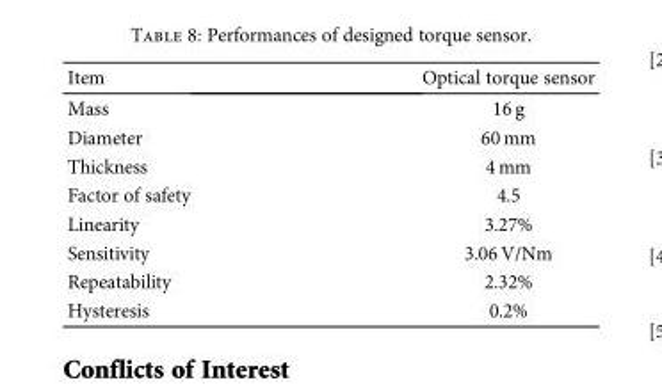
<table><thead><tr><td>Item</td><td>Optical torque sensor</td></tr></thead><tbody><tr><td>Mass</td><td>16 g</td></tr><tr><td>Diameter</td><td>60 mm</td></tr><tr><td>Thickness</td><td>4 mm</td></tr><tr><td>Factor of safety</td><td>4.5</td></tr><tr><td>Linearity</td><td>3.27%</td></tr><tr><td>Sensitivity</td><td>3.06 V/Nm</td></tr><tr><td>Repeatability</td><td>2.32%</td></tr><tr><td>Hysteresis</td><td>0.2%</td></tr></tbody></table>